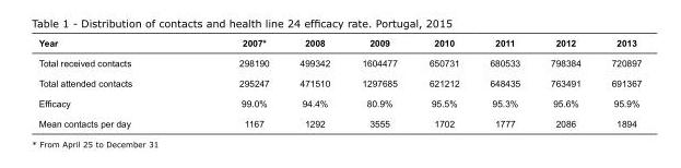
<table><thead><tr><td>Year</td><td>2007*</td><td>2008</td><td>2009</td><td>2010</td><td>2011</td><td>2012</td><td>2013</td></tr></thead><tbody><tr><td>Total received contacts</td><td>298190</td><td>499342</td><td>1604477</td><td>650731</td><td>680533</td><td>798384</td><td>720897</td></tr><tr><td>Total attended contacts</td><td>295247</td><td>471510</td><td>1297685</td><td>621212</td><td>648435</td><td>763491</td><td>691367</td></tr><tr><td>Efficacy</td><td>99.0%</td><td>94.4%</td><td>80.9%</td><td>95.5%</td><td>95.3%</td><td>95.6%</td><td>95.9%</td></tr><tr><td>Mean contacts per day</td><td>1167</td><td>1292</td><td>3555</td><td>1702</td><td>1777</td><td>2086</td><td>1894</td></tr></tbody></table>